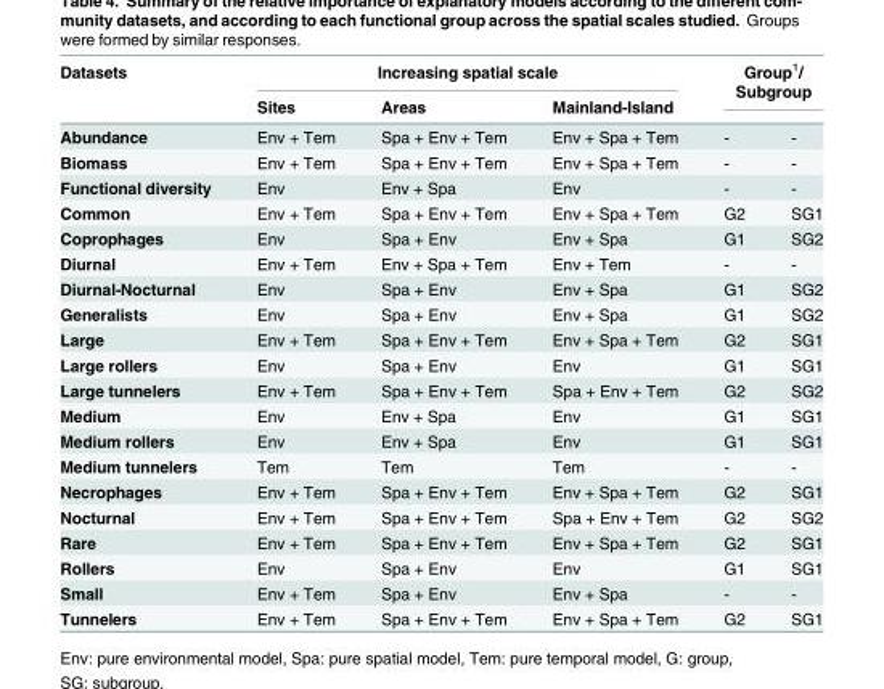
<table><thead><tr><td rowspan="3">Datasets Abundance</td><td colspan="3">Increasing spatial scale</td><td rowspan="2" colspan="2">Group<sup>1</sup>/ Subgroup</td></tr><tr><td rowspan="2">Sites Env + Tem</td><td rowspan="2">Areas Spa + Env + Tem</td><td rowspan="2">Mainland-Island Env + Spa + Tem</td></tr><tr><td>-</td><td>-</td></tr></thead><tbody><tr><td>Biomass</td><td>Env + Tem</td><td>Spa + Env + Tem</td><td>Env + Spa + Tem</td><td>-</td><td>-</td></tr><tr><td>Functional diversity</td><td>Env</td><td>Env + Spa</td><td>Env</td><td>-</td><td>-</td></tr><tr><td>Common</td><td>Env + Tem</td><td>Spa + Env + Tem</td><td>Env + Spa + Tem</td><td>G2</td><td>SG1</td></tr><tr><td>Coprophages</td><td>Env</td><td>Spa + Env</td><td>Env + Spa</td><td>G1</td><td>SG2</td></tr><tr><td>Diurnal</td><td>Env + Tem</td><td>Env + Spa + Tem</td><td>Env + Tem</td><td>-</td><td>-</td></tr><tr><td>Diurnal-Nocturnal</td><td>Env</td><td>Spa + Env</td><td>Env + Spa</td><td>G1</td><td>SG2</td></tr><tr><td>Generalists</td><td>Env</td><td>Spa + Env</td><td>Env + Spa</td><td>G1</td><td>SG2</td></tr><tr><td>Large</td><td>Env + Tem</td><td>Spa + Env + Tem</td><td>Env + Spa + Tem</td><td>G2</td><td>SG1</td></tr><tr><td>Large rollers</td><td>Env</td><td>Spa + Env</td><td>Env</td><td>G1</td><td>SG1</td></tr><tr><td>Large tunnelers</td><td>Env + Tem</td><td>Spa + Env + Tem</td><td>Spa + Env + Tem</td><td>G2</td><td>SG2</td></tr><tr><td>Medium</td><td>Env</td><td>Env + Spa</td><td>Env</td><td>G1</td><td>SG1</td></tr><tr><td>Medium rollers</td><td>Env</td><td>Env + Spa</td><td>Env</td><td>G1</td><td>SG1</td></tr><tr><td>Medium tunnelers</td><td>Tem</td><td>Tem</td><td>Tem</td><td>-</td><td>-</td></tr><tr><td>Necrophages</td><td>Env + Tem</td><td>Spa + Env + Tem</td><td>Env + Spa + Tem</td><td>G2</td><td>SG1</td></tr><tr><td>Nocturnal</td><td>Env + Tem</td><td>Spa + Env + Tem</td><td>Spa + Env + Tem</td><td>G2</td><td>SG2</td></tr><tr><td>Rare</td><td>Env + Tem</td><td>Spa + Env + Tem</td><td>Env + Spa + Tem</td><td>G2</td><td>SG1</td></tr><tr><td>Rollers</td><td>Env</td><td>Spa + Env</td><td>Env</td><td>G1</td><td>SG1</td></tr><tr><td>Small</td><td>Env + Tem</td><td>Spa + Env</td><td>Env + Spa</td><td>-</td><td>-</td></tr><tr><td>Tunnelers</td><td>Env + Tem</td><td>Spa + Env + Tem</td><td>Env + Spa + Tem</td><td>G2</td><td>SG1</td></tr></tbody></table>